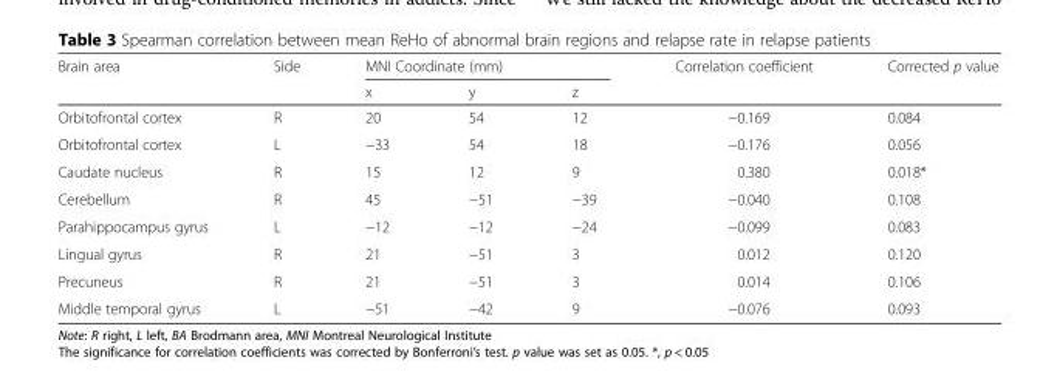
<table><thead><tr><td rowspan="2">Brain area</td><td rowspan="2">Side</td><td colspan="3">MNI Coordinate (mm)</td><td rowspan="2">Correlation coefficient</td><td rowspan="2">Corrected p value</td></tr><tr><td>x</td><td>y</td><td>z</td></tr></thead><tbody><tr><td>Orbitofrontal cortex</td><td>R</td><td>20</td><td>54</td><td>12</td><td>−0.169</td><td>0.084</td></tr><tr><td>Orbitofrontal cortex</td><td>L</td><td>−33</td><td>54</td><td>18</td><td>−0.176</td><td>0.056</td></tr><tr><td>Caudate nucleus</td><td>R</td><td>15</td><td>12</td><td>9</td><td>0.380</td><td>0.018*</td></tr><tr><td>Cerebellum</td><td>R</td><td>45</td><td>−51</td><td>−39</td><td>−0.040</td><td>0.108</td></tr><tr><td>Parahippocampus gyrus</td><td>L</td><td>−12</td><td>−12</td><td>−24</td><td>−0.099</td><td>0.083</td></tr><tr><td>Lingual gyrus</td><td>R</td><td>21</td><td>−51</td><td>3</td><td>0.012</td><td>0.120</td></tr><tr><td>Precuneus</td><td>R</td><td>21</td><td>−51</td><td>3</td><td>0.014</td><td>0.106</td></tr><tr><td>Middle temporal gyrus</td><td>L</td><td>−51</td><td>−42</td><td>9</td><td>−0.076</td><td>0.093</td></tr></tbody></table>